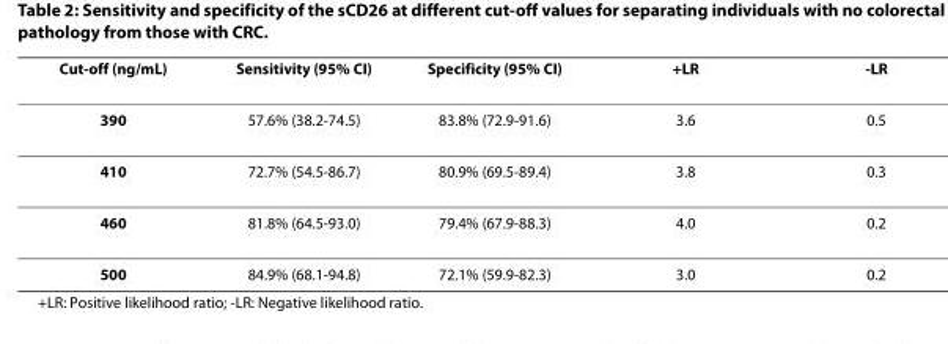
<table><thead><tr><td>Cut-off (ng/mL)</td><td>Sensitivity (95% CI)</td><td>Specificity (95% CI)</td><td>+LR</td><td>-LR</td></tr></thead><tbody><tr><td>390</td><td>57.6% (38.2-74.5)</td><td>83.8% (72.9-91.6)</td><td>3.6</td><td>0.5</td></tr><tr><td>410</td><td>72.7% (54.5-86.7)</td><td>80.9% (69.5-89.4)</td><td>3.8</td><td>0.3</td></tr><tr><td>460</td><td>81.8% (64.5-93.0)</td><td>79.4% (67.9-88.3)</td><td>4.0</td><td>0.2</td></tr><tr><td>500</td><td>84.9% (68.1-94.8)</td><td>72.1% (59.9-82.3)</td><td>3.0</td><td>0.2</td></tr></tbody></table>